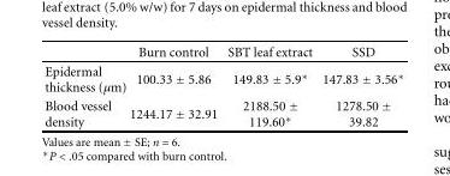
<table><thead><tr><td></td><td>Burn control</td><td>SBT leaf extract</td><td>SSD</td></tr></thead><tbody><tr><td>Epidermal thickness (μm)</td><td>100.33 ± 5.86</td><td>149.83 ± 5.9∗</td><td>147.83 ± 3.56∗</td></tr><tr><td>Blood vessel density</td><td>1244.17 ± 32.91</td><td>2188.50 ± 119.60∗</td><td>1278.50 ± 39.82</td></tr></tbody></table>